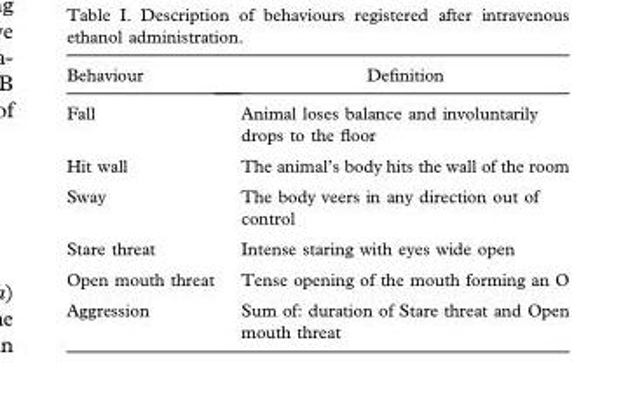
<table><thead><tr><td>Behaviour</td><td>Definition</td></tr></thead><tbody><tr><td>Fall</td><td>Animal loses balance and involuntarily drops to the floor</td></tr><tr><td>Hit wall</td><td>The animal’s body hits the wall of the room</td></tr><tr><td>Sway</td><td>The body veers in any direction out of control</td></tr><tr><td>Stare threat</td><td>Intense staring with eyes wide open</td></tr><tr><td>Open mouth threat</td><td>Tense opening of the mouth forming an O</td></tr><tr><td>Aggression</td><td>Sum of: duration of Stare threat and Open mouth threat</td></tr></tbody></table>